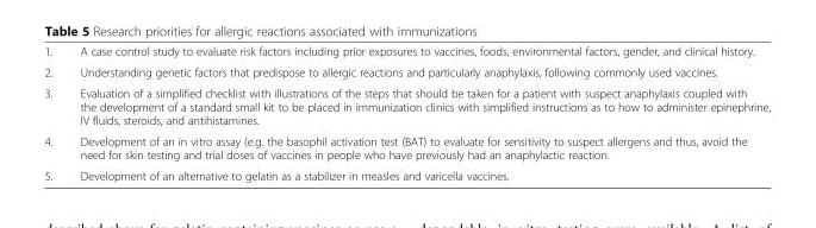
<table><tbody><tr><td>1.</td><td>A case control study to evaluate risk factors including prior exposures to vaccines, foods, environmental factors, gender, and clinical history.</td></tr><tr><td>2.</td><td>Understanding genetic factors that predispose to allergic reactions and particularly anaphylaxis, following commonly used vaccines.</td></tr><tr><td>3.</td><td>Evaluation of a simplified checklist with illustrations of the steps that should be taken for a patient with suspect anaphylaxis coupled with the development of a standard small kit to be placed in immunization clinics with simplified instructions as to how to administer epinephrine, IV fluids, steroids, and antihistamines.</td></tr><tr><td>4.</td><td>Development of an in vitro assay (e.g. the basophil activation test (BAT) to evaluate for sensitivity to suspect allergens and thus, avoid the need for skin testing and trial doses of vaccines in people who have previously had an anaphylactic reaction.</td></tr><tr><td>5.</td><td>Development of an alternative to gelatin as a stabilizer in measles and varicella vaccines.</td></tr></tbody></table>